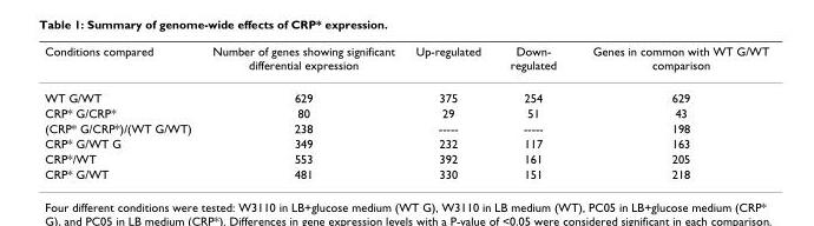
<table><thead><tr><td>Conditions compared</td><td>Number of genes showing significant differential expression</td><td>Up-regulated</td><td>Down- regulated</td><td>Genes in common with WT G/WT comparison</td></tr></thead><tbody><tr><td>WT G/WT</td><td>629</td><td>375</td><td>254</td><td>629</td></tr><tr><td>CRP* G/CRP*</td><td>80</td><td>29</td><td>51</td><td>43</td></tr><tr><td>(CRP* G/CRP*)/(WT G/WT)</td><td>238</td><td>-----</td><td>-----</td><td>198</td></tr><tr><td>CRP* G/WT G</td><td>349</td><td>232</td><td>117</td><td>163</td></tr><tr><td>CRP*/WT</td><td>553</td><td>392</td><td>161</td><td>205</td></tr><tr><td>CRP* G/WT</td><td>481</td><td>330</td><td>151</td><td>218</td></tr></tbody></table>